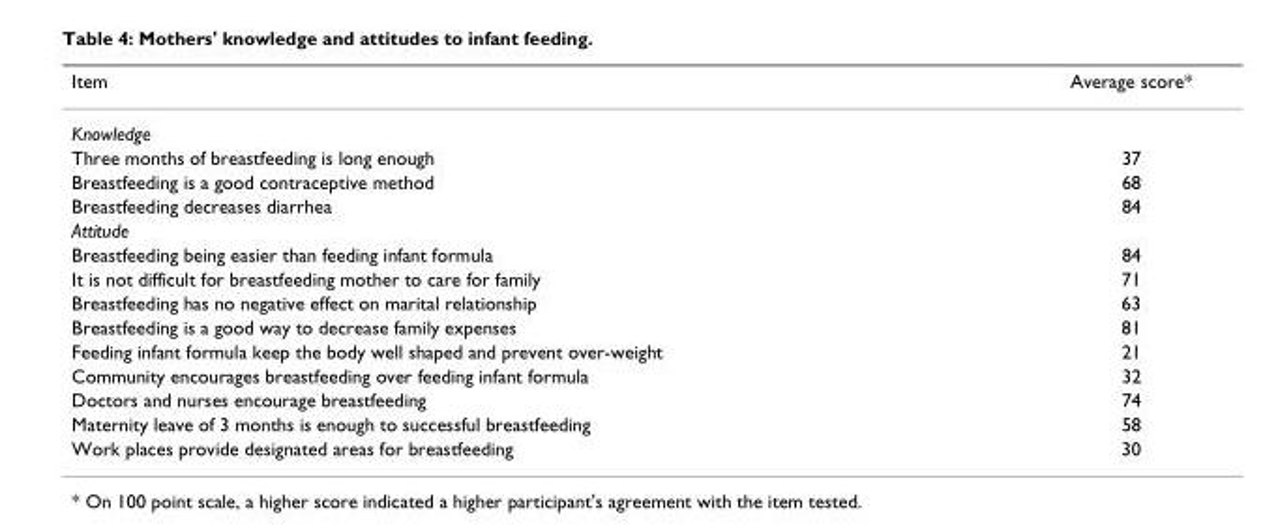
<table><thead><tr><td>Item</td><td>Average score*</td></tr></thead><tbody><tr><td colspan="2">Knowledge</td></tr><tr><td>Three months of breastfeeding is long enough</td><td>37</td></tr><tr><td>Breastfeeding is a good contraceptive method</td><td>68</td></tr><tr><td>Breastfeeding decreases diarrhea</td><td>84</td></tr><tr><td colspan="2">Attitude</td></tr><tr><td>Breastfeeding being easier than feeding infant formula</td><td>84</td></tr><tr><td>It is not difficult for breastfeeding mother to care for family</td><td>71</td></tr><tr><td>Breastfeeding has no negative effect on marital relationship</td><td>63</td></tr><tr><td>Breastfeeding is a good way to decrease family expenses</td><td>81</td></tr><tr><td>Feeding infant formula keep the body well shaped and prevent over-weight</td><td>21</td></tr><tr><td>Community encourages breastfeeding over feeding infant formula</td><td>32</td></tr><tr><td>Doctors and nurses encourage breastfeeding</td><td>74</td></tr><tr><td>Maternity leave of 3 months is enough to successful breastfeeding</td><td>58</td></tr><tr><td>Work places provide designated areas for breastfeeding</td><td>30</td></tr></tbody></table>